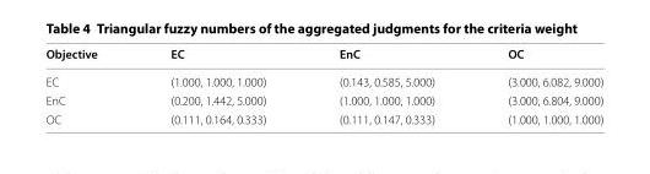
<table><thead><tr><td>Objective</td><td>EC</td><td>EnC</td><td>OC</td></tr></thead><tbody><tr><td>EC</td><td>(1.000, 1.000, 1.000)</td><td>(0.143, 0.585, 5.000)</td><td>(3.000, 6.082, 9.000)</td></tr><tr><td>EnC</td><td>(0.200, 1.442, 5.000)</td><td>(1.000, 1.000, 1.000)</td><td>(3.000, 6.804, 9.000)</td></tr><tr><td>OC</td><td>(0.111, 0.164, 0.333)</td><td>(0.111, 0.147, 0.333)</td><td>(1.000, 1.000, 1.000)</td></tr></tbody></table>